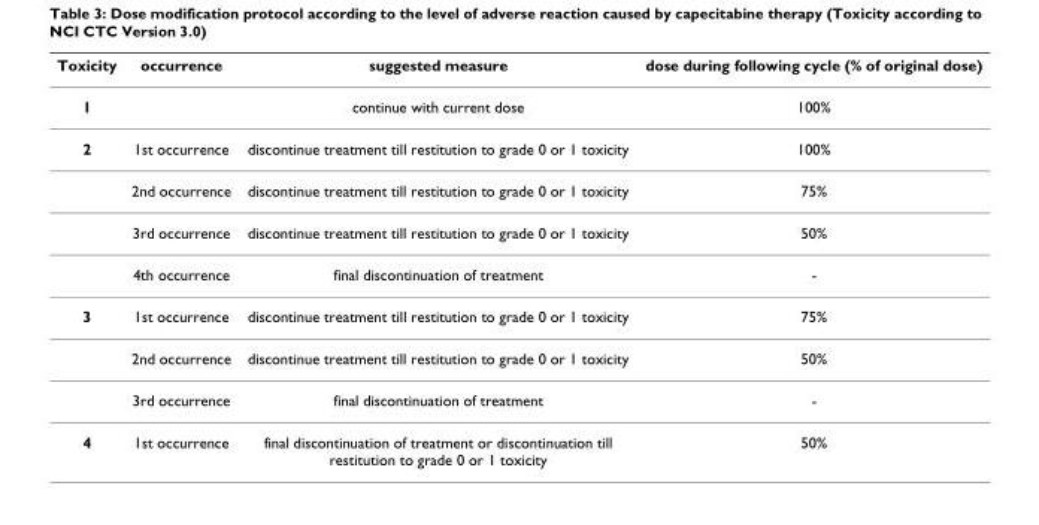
<table><thead><tr><td>Toxicity</td><td>occurrence</td><td>suggested measure</td><td>dose during following cycle (% of original dose)</td></tr></thead><tbody><tr><td>1</td><td></td><td>continue with current dose</td><td>100%</td></tr><tr><td rowspan="4">2</td><td>1st occurrence</td><td>discontinue treatment till restitution to grade 0 or 1 toxicity</td><td>100%</td></tr><tr><td>2nd occurrence</td><td>discontinue treatment till restitution to grade 0 or 1 toxicity</td><td>75%</td></tr><tr><td>3rd occurrence</td><td>discontinue treatment till restitution to grade 0 or 1 toxicity</td><td>50%</td></tr><tr><td>4th occurrence</td><td>final discontinuation of treatment</td><td>-</td></tr><tr><td rowspan="3">3</td><td>1st occurrence</td><td>discontinue treatment till restitution to grade 0 or 1 toxicity</td><td>75%</td></tr><tr><td>2nd occurrence</td><td>discontinue treatment till restitution to grade 0 or 1 toxicity</td><td>50%</td></tr><tr><td>3rd occurrence</td><td>final discontinuation of treatment</td><td>-</td></tr><tr><td>4</td><td>1st occurrence</td><td>final discontinuation of treatment or discontinuation till restitution to grade 0 or 1 toxicity</td><td>50%</td></tr></tbody></table>